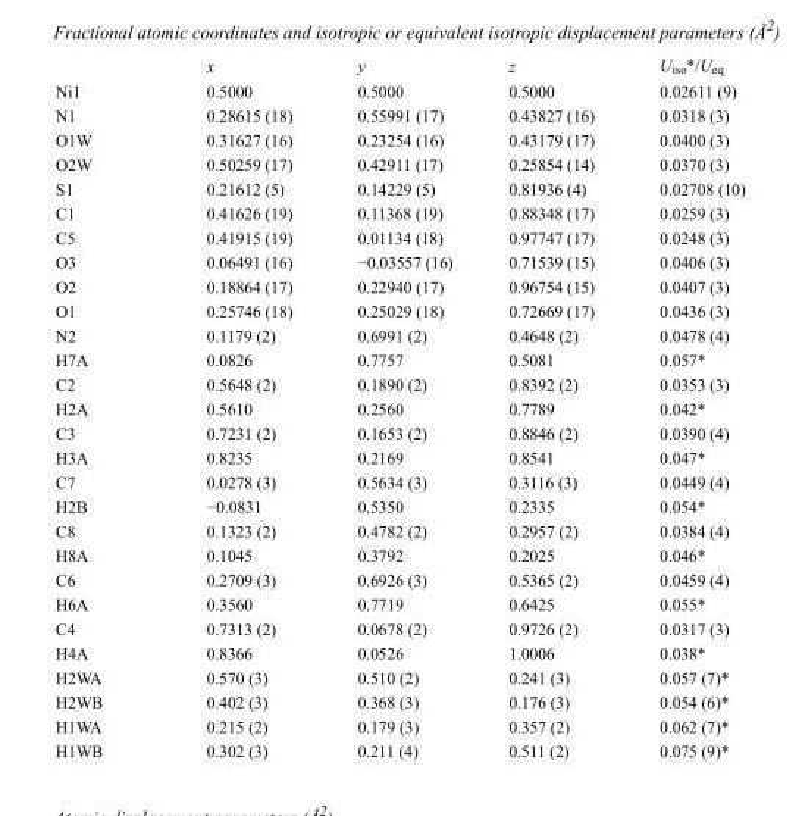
<table><thead><tr><td></td><td>x</td><td>y</td><td>z</td><td>U<sub>iso</sub>*/U<sub>eq</sub></td></tr></thead><tbody><tr><td>Ni1</td><td>0.5000</td><td>0.5000</td><td>0.5000</td><td>0.02611 (9)</td></tr><tr><td>N1</td><td>0.28615 (18)</td><td>0.55991 (17)</td><td>0.43827 (16)</td><td>0.0318 (3)</td></tr><tr><td>O1W</td><td>0.31627 (16)</td><td>0.23254 (16)</td><td>0.43179 (17)</td><td>0.0400 (3)</td></tr><tr><td>O2W</td><td>0.50259 (17)</td><td>0.42911 (17)</td><td>0.25854 (14)</td><td>0.0370 (3)</td></tr><tr><td>S1</td><td>0.21612 (5)</td><td>0.14229 (5)</td><td>0.81936 (4)</td><td>0.02708 (10)</td></tr><tr><td>C1</td><td>0.41626 (19)</td><td>0.11368 (19)</td><td>0.88348 (17)</td><td>0.0259 (3)</td></tr><tr><td>C5</td><td>0.41915 (19)</td><td>0.01134 (18)</td><td>0.97747 (17)</td><td>0.0248 (3)</td></tr><tr><td>O3</td><td>0.06491 (16)</td><td>−0.03557 (16)</td><td>0.71539 (15)</td><td>0.0406 (3)</td></tr><tr><td>O2</td><td>0.18864 (17)</td><td>0.22940 (17)</td><td>0.96754 (15)</td><td>0.0407 (3)</td></tr><tr><td>O1</td><td>0.25746 (18)</td><td>0.25029 (18)</td><td>0.72669 (17)</td><td>0.0436 (3)</td></tr><tr><td>N2</td><td>0.1179 (2)</td><td>0.6991 (2)</td><td>0.4648 (2)</td><td>0.0478 (4)</td></tr><tr><td>H7A</td><td>0.0826</td><td>0.7757</td><td>0.5081</td><td>0.057*</td></tr><tr><td>C2</td><td>0.5648 (2)</td><td>0.1890 (2)</td><td>0.8392 (2)</td><td>0.0353 (3)</td></tr><tr><td>H2A</td><td>0.5610</td><td>0.2560</td><td>0.7789</td><td>0.042*</td></tr><tr><td>C3</td><td>0.7231 (2)</td><td>0.1653 (2)</td><td>0.8846 (2)</td><td>0.0390 (4)</td></tr><tr><td>H3A</td><td>0.8235</td><td>0.2169</td><td>0.8541</td><td>0.047*</td></tr><tr><td>C7</td><td>0.0278 (3)</td><td>0.5634 (3)</td><td>0.3116 (3)</td><td>0.0449 (4)</td></tr><tr><td>H2B</td><td>−0.0831</td><td>0.5350</td><td>0.2335</td><td>0.054*</td></tr><tr><td>C8</td><td>0.1323 (2)</td><td>0.4782 (2)</td><td>0.2957 (2)</td><td>0.0384 (4)</td></tr><tr><td>H8A</td><td>0.1045</td><td>0.3792</td><td>0.2025</td><td>0.046*</td></tr><tr><td>C6</td><td>0.2709 (3)</td><td>0.6926 (3)</td><td>0.5365 (2)</td><td>0.0459 (4)</td></tr><tr><td>H6A</td><td>0.3560</td><td>0.7719</td><td>0.6425</td><td>0.055*</td></tr><tr><td>C4</td><td>0.7313 (2)</td><td>0.0678 (2)</td><td>0.9726 (2)</td><td>0.0317 (3)</td></tr><tr><td>H4A</td><td>0.8366</td><td>0.0526</td><td>1.0006</td><td>0.038*</td></tr><tr><td>H2WA</td><td>0.570 (3)</td><td>0.510 (2)</td><td>0.241 (3)</td><td>0.057 (7)*</td></tr><tr><td>H2WB</td><td>0.402 (3)</td><td>0.368 (3)</td><td>0.176 (3)</td><td>0.054 (6)*</td></tr><tr><td>H1WA</td><td>0.215 (2)</td><td>0.179 (3)</td><td>0.357 (2)</td><td>0.062 (7)*</td></tr><tr><td>H1WB</td><td>0.302 (3)</td><td>0.211 (4)</td><td>0.511 (2)</td><td>0.075 (9)*</td></tr></tbody></table>